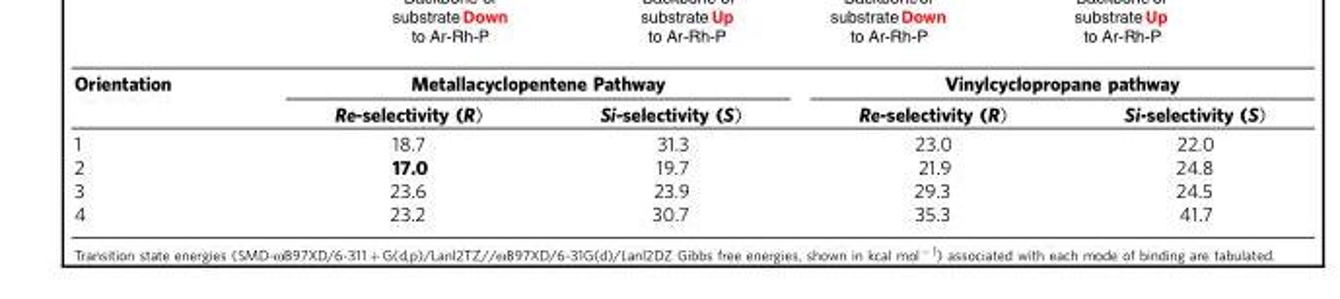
<table><thead><tr><td rowspan="2">Orientation</td><td colspan="2">Metallacyclopentene Pathway</td><td colspan="2">Vinylcyclopropane pathway</td></tr><tr><td>Re-selectivity (R)</td><td>Si-selectivity (S)</td><td>Re-selectivity (R)</td><td>Si-selectivity (S)</td></tr></thead><tbody><tr><td>1</td><td>18.7</td><td>31.3</td><td>23.0</td><td>22.0</td></tr><tr><td>2</td><td>17.0</td><td>19.7</td><td>21.9</td><td>24.8</td></tr><tr><td>3</td><td>23.6</td><td>23.9</td><td>29.3</td><td>24.5</td></tr><tr><td>4</td><td>23.2</td><td>30.7</td><td>35.3</td><td>41.7</td></tr></tbody></table>